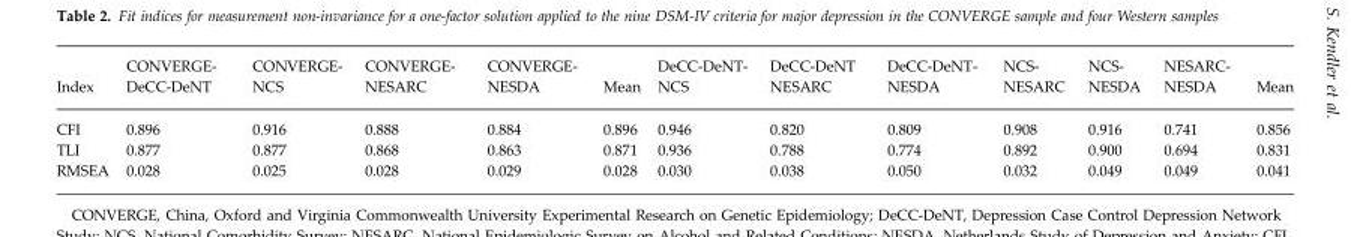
<table><thead><tr><td>Index</td><td>CONVERGE- DeCC-DeNT</td><td>CONVERGE- NCS</td><td>CONVERGE- NESARC</td><td>CONVERGE- NESDA</td><td>Mean</td><td>DeCC-DeNT- NCS</td><td>DeCC-DeNT NESARC</td><td>DeCC-DeNT- NESDA</td><td>NCS- NESARC</td><td>NCS- NESDA</td><td>NESARC- NESDA</td><td>Mean</td></tr></thead><tbody><tr><td>CFI</td><td>0.896</td><td>0.916</td><td>0.888</td><td>0.884</td><td>0.896</td><td>0.946</td><td>0.820</td><td>0.809</td><td>0.908</td><td>0.916</td><td>0.741</td><td>0.856</td></tr><tr><td>TLI</td><td>0.877</td><td>0.877</td><td>0.868</td><td>0.863</td><td>0.871</td><td>0.936</td><td>0.788</td><td>0.774</td><td>0.892</td><td>0.900</td><td>0.694</td><td>0.831</td></tr><tr><td>RMSEA</td><td>0.028</td><td>0.025</td><td>0.028</td><td>0.029</td><td>0.028</td><td>0.030</td><td>0.038</td><td>0.050</td><td>0.032</td><td>0.049</td><td>0.049</td><td>0.041</td></tr></tbody></table>